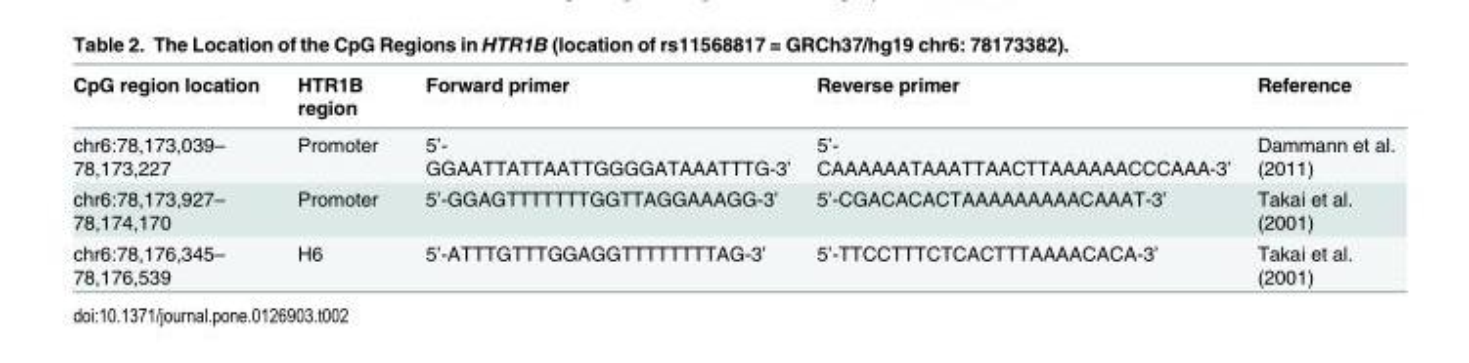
<table><thead><tr><td>CpG region location</td><td>HTR1B region</td><td>Forward primer</td><td>Reverse primer</td><td>Reference</td></tr></thead><tbody><tr><td>chr6:78,173,039– 78,173,227</td><td>Promoter</td><td>5’- GGAATTATTAATTGGGGATAAATTTG-3’</td><td>5’- CAAAAAATAAATTAACTTAAAAAACCCAAA-3’</td><td>Dammann et al. (2011)</td></tr><tr><td>chr6:78,173,927– 78,174,170</td><td>Promoter</td><td>5’-GGAGTTTTTTTGGTTAGGAAAGG-3’</td><td>5’-CGACACACTAAAAAAAAACAAAT-3’</td><td>Takai et al. (2001)</td></tr><tr><td>chr6:78,176,345– 78,176,539</td><td>H6</td><td>5’-ATTTGTTTGGAGGTTTTTTTTAG-3’</td><td>5’-TTCCTTTCTCACTTTAAAACACA-3’</td><td>Takai et al. (2001)</td></tr></tbody></table>